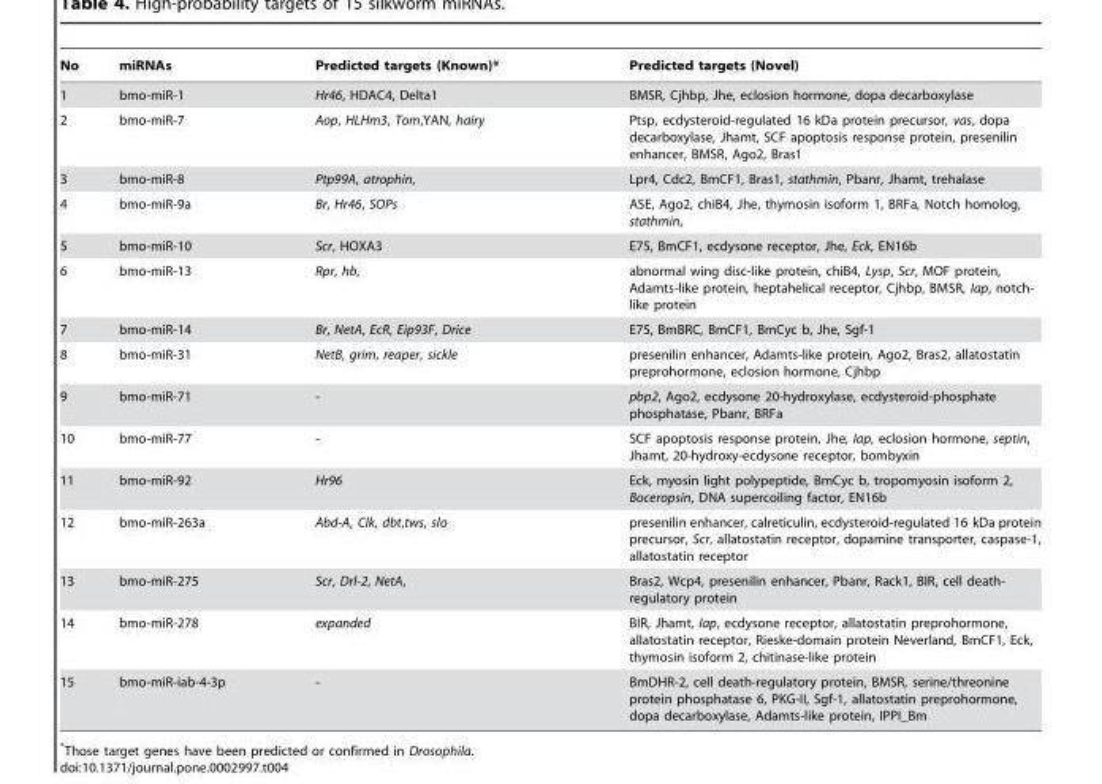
<table><thead><tr><td>No</td><td>miRNAs</td><td>Predicted targets (Known)*</td><td>Predicted targets (Novel)</td></tr></thead><tbody><tr><td>1</td><td>bmo-miR-1</td><td>Hr46, HDAC4, Delta1</td><td>BMSR, Cjhbp, Jhe, eclosion hormone, dopa decarboxylase</td></tr><tr><td>2</td><td>bmo-miR-7</td><td>Aop, HLHm3, Tom,YAN, hairy</td><td>Ptsp, ecdysteroid-regulated 16 kDa protein precursor, vas, dopa decarboxylase, Jhamt, SCF apoptosis response protein, presenilin enhancer, BMSR, Ago2, Bras1</td></tr><tr><td>3</td><td>bmo-miR-8</td><td>Ptp99A, atrophin,</td><td>Lpr4, Cdc2, BmCF1, Bras1, stathmin, Pbanr, Jhamt, trehalase</td></tr><tr><td>4</td><td>bmo-miR-9a</td><td>Br, Hr46, SOPs</td><td>ASE, Ago2, chiB4, Jhe, thymosin isoform 1, BRFa, Notch homolog, stathmin,</td></tr><tr><td>5</td><td>bmo-miR-10</td><td>Scr, HOXA3</td><td>E75, BmCF1, ecdysone receptor, Jhe, Eck, EN16b</td></tr><tr><td>6</td><td>bmo-miR-13</td><td>Rpr, hb,</td><td>abnormal wing disc-like protein, chiB4, Lysp, Scr, MOF protein, Adamts-like protein, heptahelical receptor, Cjhbp, BMSR, Iap, notch- like protein</td></tr><tr><td>7</td><td>bmo-miR-14</td><td>Br, NetA, EcR, Eip93F, Drice</td><td>E75, BmBRC, BmCF1, BmCyc b, Jhe, Sgf-1</td></tr><tr><td>8</td><td>bmo-miR-31</td><td>NetB, grim, reaper, sickle</td><td>presenilin enhancer, Adamts-like protein, Ago2, Bras2, allatostatin preprohormone, eclosion hormone, Cjhbp</td></tr><tr><td>9</td><td>bmo-miR-71</td><td>-</td><td>pbp2, Ago2, ecdysone 20-hydroxylase, ecdysteroid-phosphate phosphatase, Pbanr, BRFa</td></tr><tr><td>10</td><td>bmo-miR-77</td><td>-</td><td>SCF apoptosis response protein, Jhe, Iap, eclosion hormone, septin, Jhamt, 20-hydroxy-ecdysone receptor, bombyxin</td></tr><tr><td>11</td><td>bmo-miR-92</td><td>Hr96</td><td>Eck, myosin light polypeptide, BmCyc b, tropomyosin isoform 2, Boceropsin, DNA supercoiling factor, EN16b</td></tr><tr><td>12</td><td>bmo-miR-263a</td><td>Abd-A, Clk, dbt,tws, slo</td><td>presenilin enhancer, calreticulin, ecdysteroid-regulated 16 kDa protein precursor, Scr, allatostatin receptor, dopamine transporter, caspase-1, allatostatin receptor</td></tr><tr><td>13</td><td>bmo-miR-275</td><td>Scr, Drl-2, NetA,</td><td>Bras2, Wcp4, presenilin enhancer, Pbanr, Rack1, BIR, cell death- regulatory protein</td></tr><tr><td>14</td><td>bmo-miR-278</td><td>expanded</td><td>BIR, Jhamt, Iap, ecdysone receptor, allatostatin preprohormone, allatostatin receptor, Rieske-domain protein Neverland, BmCF1, Eck, thymosin isoform 2, chitinase-like protein</td></tr><tr><td>15</td><td>bmo-miR-iab-4-3p</td><td>-</td><td>BmDHR-2, cell death-regulatory protein, BMSR, serine/threonine protein phosphatase 6, PKG-II, Sgf-1, allatostatin preprohormone, dopa decarboxylase, Adamts-like protein, IPPI_Bm</td></tr></tbody></table>